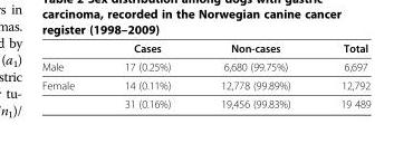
<table><thead><tr><td></td><td>Cases</td><td>Non-cases</td><td>Total</td></tr></thead><tbody><tr><td>Male</td><td>17 (0.25%)</td><td>6,680 (99.75%)</td><td>6,697</td></tr><tr><td rowspan="2">Female</td><td>14 (0.11%)</td><td>12,778 (99.89%)</td><td>12,792</td></tr><tr><td>31 (0.16%)</td><td>19,456 (99.83%)</td><td>19 489</td></tr></tbody></table>